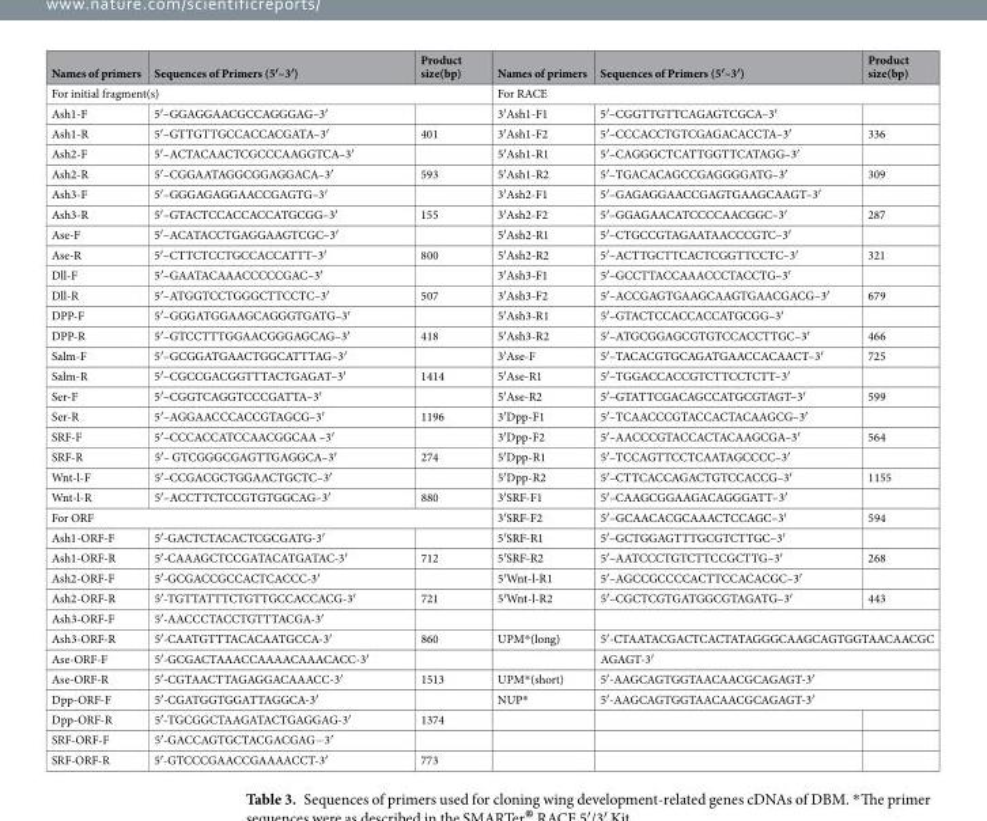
<table><thead><tr><td>Names of primers</td><td>Sequences of Primers (5′–3′)</td><td>Product size(bp)</td><td>Names of primers</td><td>Sequences of Primers (5′–3′)</td><td>Product size(bp)</td></tr></thead><tbody><tr><td colspan="3">For initial fragment(s)</td><td colspan="3">For RACE</td></tr><tr><td>Ash1-F</td><td>5′–GGAGGAACGCCAGGGAG–3′</td><td></td><td>3′Ash1-F1</td><td>5′–CGGTTGTTCAGAGTCGCA–3′</td><td></td></tr><tr><td>Ash1-R</td><td>5′–GTTGTTGCCACCACGATA–3′</td><td>401</td><td>3′Ash1-F2</td><td>5′–CCCACCTGTCGAGACACCTA–3′</td><td>336</td></tr><tr><td>Ash2-F</td><td>5′–ACTACAACTCGCCCAAGGTCA–3′</td><td></td><td>5′Ash1-R1</td><td>5′–CAGGGCTCATTGGTTCATAGG–3′</td><td></td></tr><tr><td>Ash2-R</td><td>5′–CGGAATAGGCGGAGGACA–3′</td><td>593</td><td>5′Ash1-R2</td><td>5′–TGACACAGCCGAGGGGATG–3′</td><td>309</td></tr><tr><td>Ash3-F</td><td>5′–GGGAGAGGAACCGAGTG–3′</td><td></td><td>3′Ash2-F1</td><td>5′–GAGAGGAACCGAGTGAAGCAAGT–3′</td><td></td></tr><tr><td>Ash3-R</td><td>5′–GTACTCCACCACCATGCGG–3′</td><td>155</td><td>3′Ash2-F2</td><td>5′–GGAGAACATCCCCAACGGC–3′</td><td>287</td></tr><tr><td>Ase-F</td><td>5′–ACATACCTGAGGAAGTCGC–3′</td><td></td><td>5′Ash2-R1</td><td>5′–CTGCCGTAGAATAACCCGTC–3′</td><td></td></tr><tr><td>Ase-R</td><td>5′–CTTCTCCTGCCACCATTT–3′</td><td>800</td><td>5′Ash2-R2</td><td>5′–ACTTGCTTCACTCGGTTCCTC–3′</td><td>321</td></tr><tr><td>Dll-F</td><td>5′–GAATACAAACCCCCGAC–3′</td><td></td><td>3′Ash3-F1</td><td>5′–GCCTTACCAAACCCTACCTG–3′</td><td></td></tr><tr><td>Dll-R</td><td>5′–ATGGTCCTGGGCTTCCTC–3′</td><td>507</td><td>3′Ash3-F2</td><td>5′–ACCGAGTGAAGCAAGTGAACGACG–3′</td><td>679</td></tr><tr><td>DPP-F</td><td>5′–GGGATGGAAGCAGGGTGATG–3′</td><td></td><td>5′Ash3-R1</td><td>5′–GTACTCCACCACCATGCGG–3′</td><td></td></tr><tr><td>DPP-R</td><td>5′–GTCCTTTGGAACGGGAGCAG–3′</td><td>418</td><td>5′Ash3-R2</td><td>5′–ATGCGGAGCGTGTCCACCTTGC–3′</td><td>466</td></tr><tr><td>Salm-F</td><td>5′–GCGGATGAACTGGCATTTAG–3′</td><td></td><td>3′Ase-F</td><td>5′–TACACGTGCAGATGAACCACAACT–3′</td><td>725</td></tr><tr><td>Salm-R</td><td>5′–CGCCGACGGTTTACTGAGAT–3′</td><td>1414</td><td>5′Ase-R1</td><td>5′–TGGACCACCGTCTTCCTCTT–3′</td><td></td></tr><tr><td>Ser-F</td><td>5′–CGGTCAGGTCCCGATTA–3′</td><td></td><td>5′Ase-R2</td><td>5′–GTATTCGACAGCCATGCGTAGT–3′</td><td>599</td></tr><tr><td>Ser-R</td><td>5′–AGGAACCCACCGTAGCG–3′</td><td>1196</td><td>3′Dpp-F1</td><td>5′–TCAACCCGTACCACTACAAGCG–3′</td><td></td></tr><tr><td>SRF-F</td><td>5′–CCCACCATCCAACGGCAA –3′</td><td></td><td>3′Dpp-F2</td><td>5′–AACCCGTACCACTACAAGCGA–3′</td><td>564</td></tr><tr><td>SRF-R</td><td>5′– GTCGGGCGAGTTGAGGCA–3′</td><td>274</td><td>5′Dpp-R1</td><td>5′–TCCAGTTCCTCAATAGCCCC–3′</td><td></td></tr><tr><td>Wnt-l-F</td><td>5′–CCGACGCTGGAACTGCTC–3′</td><td></td><td>5′Dpp-R2</td><td>5′–CTTCACCAGACTGTCCACCG–3′</td><td>1155</td></tr><tr><td>Wnt-l-R</td><td>5′–ACCTTCTCCGTGTGGCAG–3′</td><td>880</td><td>3′SRF-F1</td><td>5′–CAAGCGGAAGACAGGGATT–3′</td><td></td></tr><tr><td colspan="3">For ORF</td><td>3′SRF-F2</td><td>5′–GCAACACGCAAACTCCAGC–3′</td><td>594</td></tr><tr><td>Ash1-ORF-F</td><td>5′-GACTCTACACTCGCGATG-3′</td><td></td><td>5′SRF-R1</td><td>5′–GCTGGAGTTTGCGTCTTGC–3′</td><td></td></tr><tr><td>Ash1-ORF-R</td><td>5′-CAAAGCTCCGATACATGATAC-3′</td><td>712</td><td>5′SRF-R2</td><td>5′–AATCCCTGTCTTCCGCTTG–3′</td><td>268</td></tr><tr><td>Ash2-ORF-F</td><td>5′-GCGACCGCCACTCACCC-3′</td><td></td><td>5′Wnt-l-R1</td><td>5′–AGCCGCCCCACTTCCACACGC–3′</td><td></td></tr><tr><td>Ash2-ORF-R</td><td>5′-TGTTATTTCTGTTGCCACCACG-3′</td><td>721</td><td>5′Wnt-l-R2</td><td>5′–CGCTCGTGATGGCGTAGATG–3′</td><td>443</td></tr><tr><td>Ash3-ORF-F</td><td>5′-AACCCTACCTGTTTACGA-3′</td><td></td><td></td><td colspan="2"></td></tr><tr><td>Ash3-ORF-R</td><td>5′-CAATGTTTACACAATGCCA-3′</td><td>860</td><td>UPM*(long)</td><td colspan="2">5′-CTAATACGACTCACTATAGGGCAAGCAGTGGTAACAACGC</td></tr><tr><td>Ase-ORF-F</td><td>5′-GCGACTAAACCAAAACAAACACC-3′</td><td></td><td></td><td colspan="2">AGAGT-3′</td></tr><tr><td>Ase-ORF-R</td><td>5′-CGTAACTTAGAGGACAAACC-3′</td><td>1513</td><td>UPM*(short)</td><td colspan="2">5′-AAGCAGTGGTAACAACGCAGAGT-3′</td></tr><tr><td>Dpp-ORF-F</td><td>5′-CGATGGTGGATTAGGCA-3′</td><td></td><td>NUP*</td><td colspan="2">5′-AAGCAGTGGTAACAACGCAGAGT-3′</td></tr><tr><td>Dpp-ORF-R</td><td>5′-TGCGGCTAAGATACTGAGGAG-3′</td><td>1374</td><td></td><td></td><td></td></tr><tr><td>SRF-ORF-F</td><td>5′-GACCAGTGCTACGACGAG−3′</td><td></td><td></td><td></td><td></td></tr><tr><td>SRF-ORF-R</td><td>5′-GTCCCGAACCGAAAACCT-3′</td><td>773</td><td></td><td></td><td></td></tr></tbody></table>